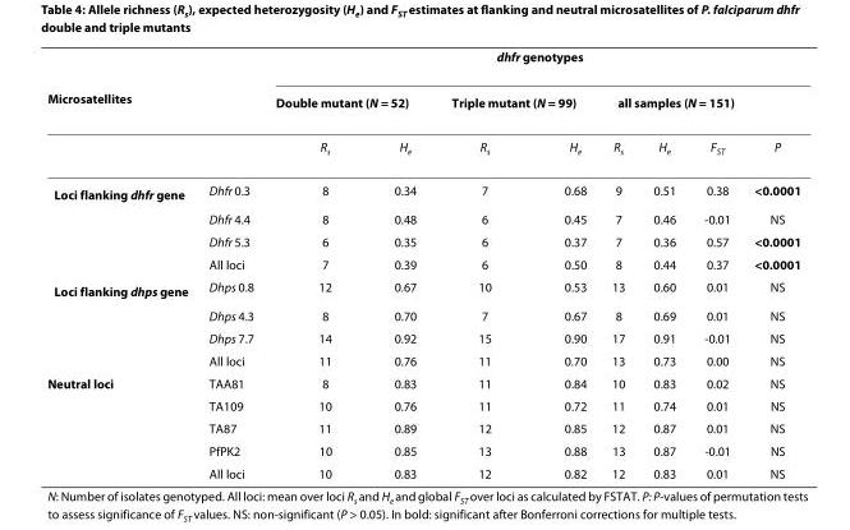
<table><thead><tr><td></td><td></td><td colspan="8">dhfr genotypes</td></tr><tr><td colspan="2">Microsatellites</td><td colspan="2">Double mutant (N = 52)</td><td colspan="2">Triple mutant (N = 99)</td><td colspan="4">all samples (N = 151)</td></tr><tr><td></td><td></td><td>R<sub>s</sub></td><td>H<sub>e</sub></td><td>R<sub>s</sub></td><td>H<sub>e</sub></td><td>R<sub>s</sub></td><td>H<sub>e</sub></td><td>F<sub>ST</sub></td><td>P</td></tr></thead><tbody><tr><td rowspan="4">Loci flanking dhfr gene</td><td>Dhfr 0.3</td><td>8</td><td>0.34</td><td>7</td><td>0.68</td><td>9</td><td>0.51</td><td>0.38</td><td>&lt;0.0001</td></tr><tr><td>Dhfr 4.4</td><td>8</td><td>0.48</td><td>6</td><td>0.45</td><td>7</td><td>0.46</td><td>-0.01</td><td>NS</td></tr><tr><td>Dhfr 5.3</td><td>6</td><td>0.35</td><td>6</td><td>0.37</td><td>7</td><td>0.36</td><td>0.57</td><td>&lt;0.0001</td></tr><tr><td>All loci</td><td>7</td><td>0.39</td><td>6</td><td>0.50</td><td>8</td><td>0.44</td><td>0.37</td><td>&lt;0.0001</td></tr><tr><td rowspan="4">Loci flanking dhps gene</td><td>Dhps 0.8</td><td>12</td><td>0.67</td><td>10</td><td>0.53</td><td>13</td><td>0.60</td><td>0.01</td><td>NS</td></tr><tr><td>Dhps 4.3</td><td>8</td><td>0.70</td><td>7</td><td>0.67</td><td>8</td><td>0.69</td><td>0.01</td><td>NS</td></tr><tr><td>Dhps 7.7</td><td>14</td><td>0.92</td><td>15</td><td>0.90</td><td>17</td><td>0.91</td><td>-0.01</td><td>NS</td></tr><tr><td>All loci</td><td>11</td><td>0.76</td><td>11</td><td>0.70</td><td>13</td><td>0.73</td><td>0.00</td><td>NS</td></tr><tr><td rowspan="5">Neutral loci</td><td>TAA81</td><td>8</td><td>0.83</td><td>11</td><td>0.84</td><td>10</td><td>0.83</td><td>0.02</td><td>NS</td></tr><tr><td>TA109</td><td>10</td><td>0.76</td><td>11</td><td>0.72</td><td>11</td><td>0.74</td><td>0.01</td><td>NS</td></tr><tr><td>TA87</td><td>11</td><td>0.89</td><td>12</td><td>0.85</td><td>12</td><td>0.87</td><td>0.01</td><td>NS</td></tr><tr><td>PfPK2</td><td>10</td><td>0.85</td><td>13</td><td>0.88</td><td>13</td><td>0.87</td><td>-0.01</td><td>NS</td></tr><tr><td>All loci</td><td>10</td><td>0.83</td><td>12</td><td>0.82</td><td>12</td><td>0.83</td><td>0.01</td><td>NS</td></tr></tbody></table>